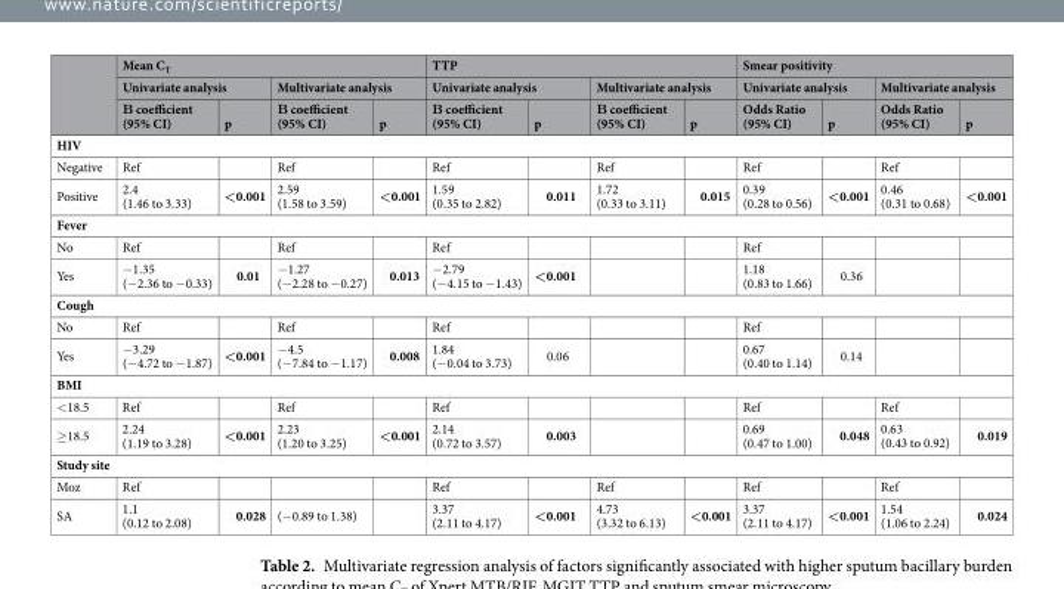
<table><thead><tr><td rowspan="3"></td><td colspan="4">Mean C<sub>T</sub></td><td colspan="4">TTP</td><td colspan="4">Smear positivity</td></tr><tr><td colspan="2">Univariate analysis</td><td colspan="2">Multivariate analysis</td><td colspan="2">Univariate analysis</td><td colspan="2">Multivariate analysis</td><td colspan="2">Univariate analysis</td><td colspan="2">Multivariate analysis</td></tr><tr><td>Β coefficient (95% CI)</td><td>p</td><td>Β coefficient (95% CI)</td><td>p</td><td>Β coefficient (95% CI)</td><td>p</td><td>Β coefficient (95% CI)</td><td>p</td><td>Odds Ratio (95% CI)</td><td>p</td><td>Odds Ratio (95% CI)</td><td>p</td></tr></thead><tbody><tr><td colspan="13">HIV</td></tr><tr><td>Negative</td><td>Ref</td><td></td><td>Ref</td><td></td><td>Ref</td><td></td><td>Ref</td><td></td><td>Ref</td><td></td><td>Ref</td><td></td></tr><tr><td>Positive</td><td>2.4 (1.46 to 3.33)</td><td>&lt;0.001</td><td>2.59 (1.58 to 3.59)</td><td>&lt;0.001</td><td>1.59 (0.35 to 2.82)</td><td>0.011</td><td>1.72 (0.33 to 3.11)</td><td>0.015</td><td>0.39 (0.28 to 0.56)</td><td>&lt;0.001</td><td>0.46 (0.31 to 0.68)</td><td>&lt;0.001</td></tr><tr><td colspan="13">Fever</td></tr><tr><td>No</td><td>Ref</td><td></td><td>Ref</td><td></td><td>Ref</td><td></td><td></td><td></td><td>Ref</td><td></td><td></td><td></td></tr><tr><td>Yes</td><td>−1.35 (−2.36 to −0.33)</td><td>0.01</td><td>−1.27 (−2.28 to −0.27)</td><td>0.013</td><td>−2.79 (−4.15 to −1.43)</td><td>&lt;0.001</td><td></td><td></td><td>1.18 (0.83 to 1.66)</td><td>0.36</td><td></td><td></td></tr><tr><td colspan="13">Cough</td></tr><tr><td>No</td><td>Ref</td><td></td><td>Ref</td><td></td><td>Ref</td><td></td><td></td><td></td><td>Ref</td><td></td><td></td><td></td></tr><tr><td>Yes</td><td>−3.29 (−4.72 to −1.87)</td><td>&lt;0.001</td><td>−4.5 (−7.84 to −1.17)</td><td>0.008</td><td>1.84 (−0.04 to 3.73)</td><td>0.06</td><td></td><td></td><td>0.67 (0.40 to 1.14)</td><td>0.14</td><td></td><td></td></tr><tr><td colspan="13">BMI</td></tr><tr><td>&lt;18.5</td><td>Ref</td><td></td><td>Ref</td><td></td><td>Ref</td><td></td><td></td><td></td><td>Ref</td><td></td><td>Ref</td><td></td></tr><tr><td>≥18.5</td><td>2.24 (1.19 to 3.28)</td><td>&lt;0.001</td><td>2.23 (1.20 to 3.25)</td><td>&lt;0.001</td><td>2.14 (0.72 to 3.57)</td><td>0.003</td><td></td><td></td><td>0.69 (0.47 to 1.00)</td><td>0.048</td><td>0.63 (0.43 to 0.92)</td><td>0.019</td></tr><tr><td colspan="13">Study site</td></tr><tr><td>Moz</td><td>Ref</td><td></td><td></td><td></td><td>Ref</td><td></td><td>Ref</td><td></td><td>Ref</td><td></td><td>Ref</td><td></td></tr><tr><td>SA</td><td>1.1 (0.12 to 2.08)</td><td>0.028</td><td>(−0.89 to 1.38)</td><td></td><td>3.37 (2.11 to 4.17)</td><td>&lt;0.001</td><td>4.73 (3.32 to 6.13)</td><td>&lt;0.001</td><td>3.37 (2.11 to 4.17)</td><td>&lt;0.001</td><td>1.54 (1.06 to 2.24)</td><td>0.024</td></tr></tbody></table>